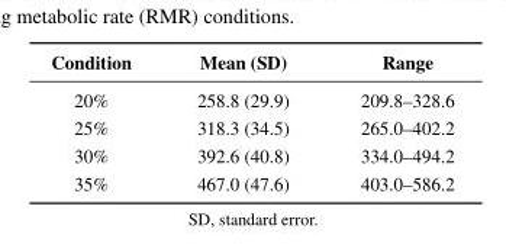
<table><thead><tr><td>Condition</td><td>Mean (SD)</td><td>Range</td></tr></thead><tbody><tr><td>20%</td><td>258.8 (29.9)</td><td>209.8–328.6</td></tr><tr><td>25%</td><td>318.3 (34.5)</td><td>265.0–402.2</td></tr><tr><td>30%</td><td>392.6 (40.8)</td><td>334.0–494.2</td></tr><tr><td>35%</td><td>467.0 (47.6)</td><td>403.0–586.2</td></tr></tbody></table>